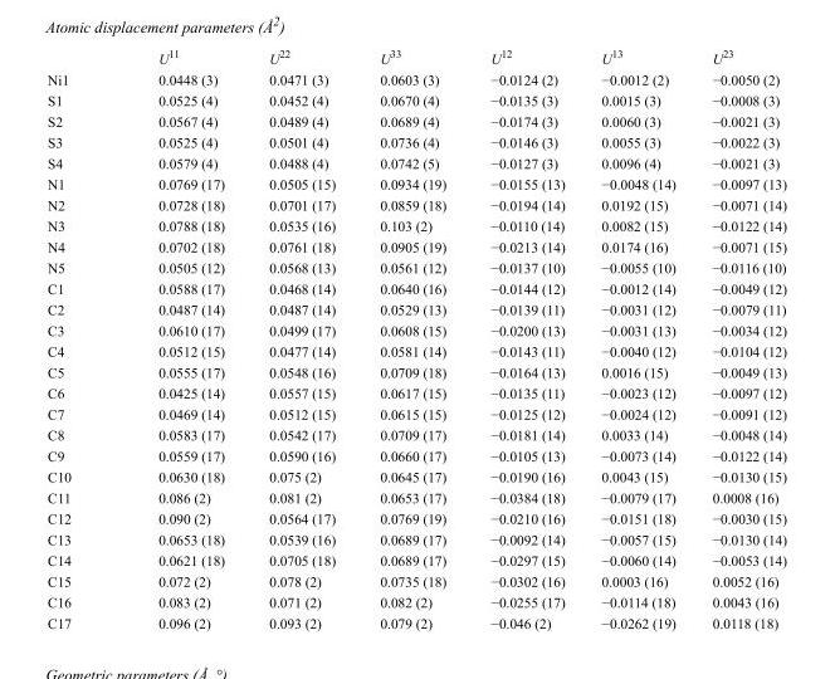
<table><thead><tr><td></td><td>U<sup>11</sup></td><td>U<sup>22</sup></td><td>U<sup>33</sup></td><td>U<sup>12</sup></td><td>U<sup>13</sup></td><td>U<sup>23</sup></td></tr></thead><tbody><tr><td>Ni1</td><td>0.0448 (3)</td><td>0.0471 (3)</td><td>0.0603 (3)</td><td>−0.0124 (2)</td><td>−0.0012 (2)</td><td>−0.0050 (2)</td></tr><tr><td>S1</td><td>0.0525 (4)</td><td>0.0452 (4)</td><td>0.0670 (4)</td><td>−0.0135 (3)</td><td>0.0015 (3)</td><td>−0.0008 (3)</td></tr><tr><td>S2</td><td>0.0567 (4)</td><td>0.0489 (4)</td><td>0.0689 (4)</td><td>−0.0174 (3)</td><td>0.0060 (3)</td><td>−0.0021 (3)</td></tr><tr><td>S3</td><td>0.0525 (4)</td><td>0.0501 (4)</td><td>0.0736 (4)</td><td>−0.0146 (3)</td><td>0.0055 (3)</td><td>−0.0022 (3)</td></tr><tr><td>S4</td><td>0.0579 (4)</td><td>0.0488 (4)</td><td>0.0742 (5)</td><td>−0.0127 (3)</td><td>0.0096 (4)</td><td>−0.0021 (3)</td></tr><tr><td>N1</td><td>0.0769 (17)</td><td>0.0505 (15)</td><td>0.0934 (19)</td><td>−0.0155 (13)</td><td>−0.0048 (14)</td><td>−0.0097 (13)</td></tr><tr><td>N2</td><td>0.0728 (18)</td><td>0.0701 (17)</td><td>0.0859 (18)</td><td>−0.0194 (14)</td><td>0.0192 (15)</td><td>−0.0071 (14)</td></tr><tr><td>N3</td><td>0.0788 (18)</td><td>0.0535 (16)</td><td>0.103 (2)</td><td>−0.0110 (14)</td><td>0.0082 (15)</td><td>−0.0122 (14)</td></tr><tr><td>N4</td><td>0.0702 (18)</td><td>0.0761 (18)</td><td>0.0905 (19)</td><td>−0.0213 (14)</td><td>0.0174 (16)</td><td>−0.0071 (15)</td></tr><tr><td>N5</td><td>0.0505 (12)</td><td>0.0568 (13)</td><td>0.0561 (12)</td><td>−0.0137 (10)</td><td>−0.0055 (10)</td><td>−0.0116 (10)</td></tr><tr><td>C1</td><td>0.0588 (17)</td><td>0.0468 (14)</td><td>0.0640 (16)</td><td>−0.0144 (12)</td><td>−0.0012 (14)</td><td>−0.0049 (12)</td></tr><tr><td>C2</td><td>0.0487 (14)</td><td>0.0487 (14)</td><td>0.0529 (13)</td><td>−0.0139 (11)</td><td>−0.0031 (12)</td><td>−0.0079 (11)</td></tr><tr><td>C3</td><td>0.0610 (17)</td><td>0.0499 (17)</td><td>0.0608 (15)</td><td>−0.0200 (13)</td><td>−0.0031 (13)</td><td>−0.0034 (12)</td></tr><tr><td>C4</td><td>0.0512 (15)</td><td>0.0477 (14)</td><td>0.0581 (14)</td><td>−0.0143 (11)</td><td>−0.0040 (12)</td><td>−0.0104 (12)</td></tr><tr><td>C5</td><td>0.0555 (17)</td><td>0.0548 (16)</td><td>0.0709 (18)</td><td>−0.0164 (13)</td><td>0.0016 (15)</td><td>−0.0049 (13)</td></tr><tr><td>C6</td><td>0.0425 (14)</td><td>0.0557 (15)</td><td>0.0617 (15)</td><td>−0.0135 (11)</td><td>−0.0023 (12)</td><td>−0.0097 (12)</td></tr><tr><td>C7</td><td>0.0469 (14)</td><td>0.0512 (15)</td><td>0.0615 (15)</td><td>−0.0125 (12)</td><td>−0.0024 (12)</td><td>−0.0091 (12)</td></tr><tr><td>C8</td><td>0.0583 (17)</td><td>0.0542 (17)</td><td>0.0709 (17)</td><td>−0.0181 (14)</td><td>0.0033 (14)</td><td>−0.0048 (14)</td></tr><tr><td>C9</td><td>0.0559 (17)</td><td>0.0590 (16)</td><td>0.0660 (17)</td><td>−0.0105 (13)</td><td>−0.0073 (14)</td><td>−0.0122 (14)</td></tr><tr><td>C10</td><td>0.0630 (18)</td><td>0.075 (2)</td><td>0.0645 (17)</td><td>−0.0190 (16)</td><td>0.0043 (15)</td><td>−0.0130 (15)</td></tr><tr><td>C11</td><td>0.086 (2)</td><td>0.081 (2)</td><td>0.0653 (17)</td><td>−0.0384 (18)</td><td>−0.0079 (17)</td><td>0.0008 (16)</td></tr><tr><td>C12</td><td>0.090 (2)</td><td>0.0564 (17)</td><td>0.0769 (19)</td><td>−0.0210 (16)</td><td>−0.0151 (18)</td><td>−0.0030 (15)</td></tr><tr><td>C13</td><td>0.0653 (18)</td><td>0.0539 (16)</td><td>0.0689 (17)</td><td>−0.0092 (14)</td><td>−0.0057 (15)</td><td>−0.0130 (14)</td></tr><tr><td>C14</td><td>0.0621 (18)</td><td>0.0705 (18)</td><td>0.0689 (17)</td><td>−0.0297 (15)</td><td>−0.0060 (14)</td><td>−0.0053 (14)</td></tr><tr><td>C15</td><td>0.072 (2)</td><td>0.078 (2)</td><td>0.0735 (18)</td><td>−0.0302 (16)</td><td>0.0003 (16)</td><td>0.0052 (16)</td></tr><tr><td>C16</td><td>0.083 (2)</td><td>0.071 (2)</td><td>0.082 (2)</td><td>−0.0255 (17)</td><td>−0.0114 (18)</td><td>0.0043 (16)</td></tr><tr><td>C17</td><td>0.096 (2)</td><td>0.093 (2)</td><td>0.079 (2)</td><td>−0.046 (2)</td><td>−0.0262 (19)</td><td>0.0118 (18)</td></tr></tbody></table>